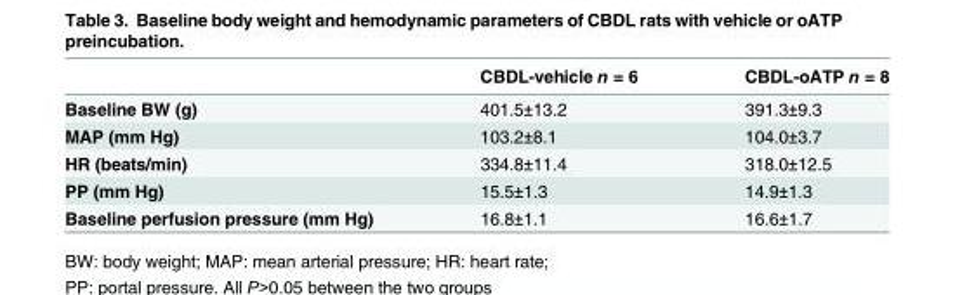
<table><thead><tr><td></td><td>CBDL-vehicle n = 6</td><td>CBDL-oATP n = 8</td></tr></thead><tbody><tr><td>Baseline BW (g)</td><td>401.5±13.2</td><td>391.3±9.3</td></tr><tr><td>MAP (mm Hg)</td><td>103.2±8.1</td><td>104.0±3.7</td></tr><tr><td>HR (beats/min)</td><td>334.8±11.4</td><td>318.0±12.5</td></tr><tr><td>PP (mm Hg)</td><td>15.5±1.3</td><td>14.9±1.3</td></tr><tr><td>Baseline perfusion pressure (mm Hg)</td><td>16.8±1.1</td><td>16.6±1.7</td></tr></tbody></table>